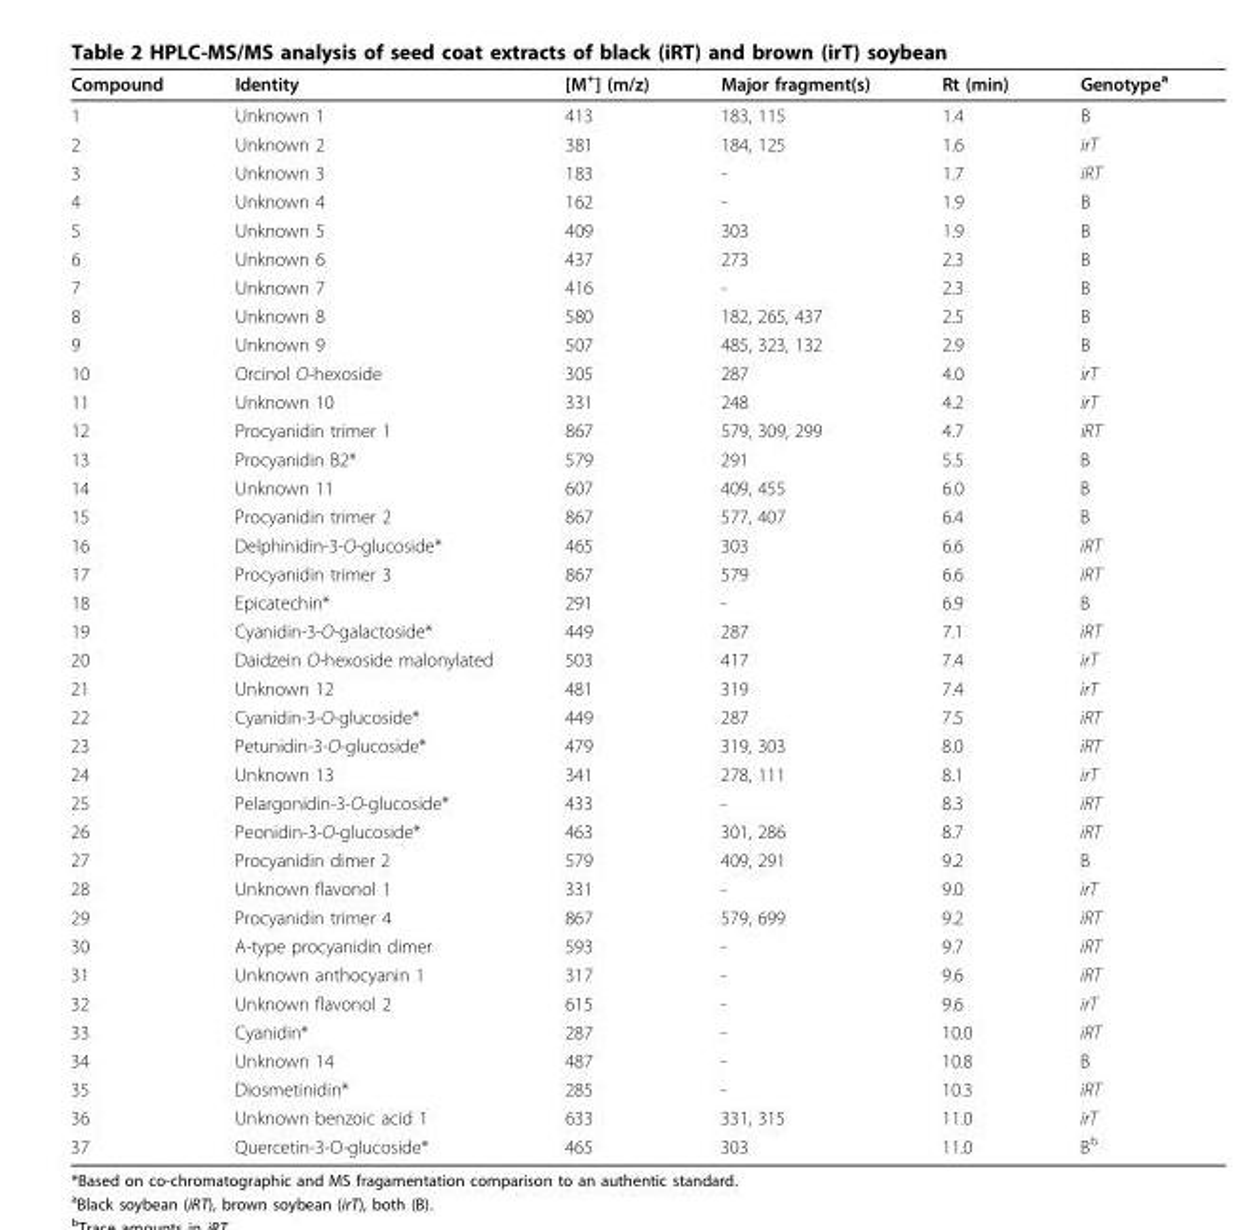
<table><thead><tr><td>Compound</td><td>Identity</td><td>[M<sup>+</sup>] (m/z)</td><td>Major fragment(s)</td><td>Rt (min)</td><td>Genotype<sup>a</sup></td></tr></thead><tbody><tr><td>1</td><td>Unknown 1</td><td>413</td><td>183, 115</td><td>1.4</td><td>B</td></tr><tr><td>2</td><td>Unknown 2</td><td>381</td><td>184, 125</td><td>1.6</td><td>irT</td></tr><tr><td>3</td><td>Unknown 3</td><td>183</td><td>-</td><td>1.7</td><td>iRT</td></tr><tr><td>4</td><td>Unknown 4</td><td>162</td><td>-</td><td>1.9</td><td>B</td></tr><tr><td>5</td><td>Unknown 5</td><td>409</td><td>303</td><td>1.9</td><td>B</td></tr><tr><td>6</td><td>Unknown 6</td><td>437</td><td>273</td><td>2.3</td><td>B</td></tr><tr><td>7</td><td>Unknown 7</td><td>416</td><td>-</td><td>2.3</td><td>B</td></tr><tr><td>8</td><td>Unknown 8</td><td>580</td><td>182, 265, 437</td><td>2.5</td><td>B</td></tr><tr><td>9</td><td>Unknown 9</td><td>507</td><td>485, 323, 132</td><td>2.9</td><td>B</td></tr><tr><td>10</td><td>Orcinol O-hexoside</td><td>305</td><td>287</td><td>4.0</td><td>irT</td></tr><tr><td>11</td><td>Unknown 10</td><td>331</td><td>248</td><td>4.2</td><td>irT</td></tr><tr><td>12</td><td>Procyanidin trimer 1</td><td>867</td><td>579, 309, 299</td><td>4.7</td><td>iRT</td></tr><tr><td>13</td><td>Procyanidin B2*</td><td>579</td><td>291</td><td>5.5</td><td>B</td></tr><tr><td>14</td><td>Unknown 11</td><td>607</td><td>409, 455</td><td>6.0</td><td>B</td></tr><tr><td>15</td><td>Procyanidin trimer 2</td><td>867</td><td>577, 407</td><td>6.4</td><td>B</td></tr><tr><td>16</td><td>Delphinidin-3-O-glucoside*</td><td>465</td><td>303</td><td>6.6</td><td>iRT</td></tr><tr><td>17</td><td>Procyanidin trimer 3</td><td>867</td><td>579</td><td>6.6</td><td>iRT</td></tr><tr><td>18</td><td>Epicatechin*</td><td>291</td><td>-</td><td>6.9</td><td>B</td></tr><tr><td>19</td><td>Cyanidin-3-O-galactoside*</td><td>449</td><td>287</td><td>7.1</td><td>iRT</td></tr><tr><td>20</td><td>Daidzein O-hexoside malonylated</td><td>503</td><td>417</td><td>7.4</td><td>irT</td></tr><tr><td>21</td><td>Unknown 12</td><td>481</td><td>319</td><td>7.4</td><td>irT</td></tr><tr><td>22</td><td>Cyanidin-3-O-glucoside*</td><td>449</td><td>287</td><td>7.5</td><td>iRT</td></tr><tr><td>23</td><td>Petunidin-3-O-glucoside*</td><td>479</td><td>319, 303</td><td>8.0</td><td>iRT</td></tr><tr><td>24</td><td>Unknown 13</td><td>341</td><td>278, 111</td><td>8.1</td><td>irT</td></tr><tr><td>25</td><td>Pelargonidin-3-O-glucoside*</td><td>433</td><td>-</td><td>8.3</td><td>iRT</td></tr><tr><td>26</td><td>Peonidin-3-O-glucoside*</td><td>463</td><td>301, 286</td><td>8.7</td><td>iRT</td></tr><tr><td>27</td><td>Procyanidin dimer 2</td><td>579</td><td>409, 291</td><td>9.2</td><td>B</td></tr><tr><td>28</td><td>Unknown flavonol 1</td><td>331</td><td>-</td><td>9.0</td><td>irT</td></tr><tr><td>29</td><td>Procyanidin trimer 4</td><td>867</td><td>579, 699</td><td>9.2</td><td>iRT</td></tr><tr><td>30</td><td>A-type procyanidin dimer</td><td>593</td><td>-</td><td>9.7</td><td>iRT</td></tr><tr><td>31</td><td>Unknown anthocyanin 1</td><td>317</td><td>-</td><td>9.6</td><td>iRT</td></tr><tr><td>32</td><td>Unknown flavonol 2</td><td>615</td><td>-</td><td>9.6</td><td>irT</td></tr><tr><td>33</td><td>Cyanidin*</td><td>287</td><td>-</td><td>10.0</td><td>iRT</td></tr><tr><td>34</td><td>Unknown 14</td><td>487</td><td>-</td><td>10.8</td><td>B</td></tr><tr><td>35</td><td>Diosmetinidin*</td><td>285</td><td>-</td><td>10.3</td><td>iRT</td></tr><tr><td>36</td><td>Unknown benzoic acid 1</td><td>633</td><td>331, 315</td><td>11.0</td><td>irT</td></tr><tr><td>37</td><td>Quercetin-3-O-glucoside*</td><td>465</td><td>303</td><td>11.0</td><td>B<sup>b</sup></td></tr></tbody></table>